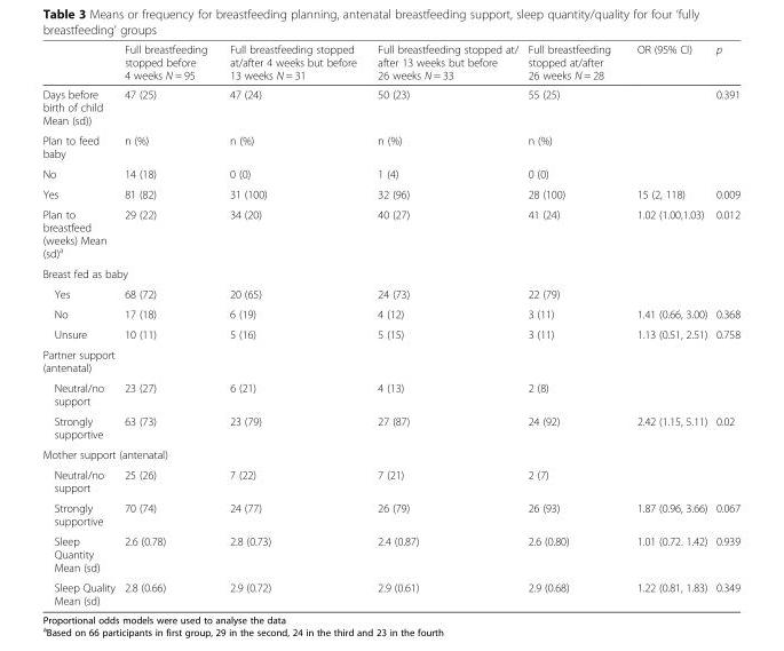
<table><thead><tr><td></td><td>Full breastfeeding stopped before 4 weeks N = 95</td><td>Full breastfeeding stopped at/after 4 weeks but before 13 weeks N = 31</td><td>Full breastfeeding stopped at/ after 13 weeks but before 26 weeks N = 33</td><td>Full breastfeeding stopped at/after 26 weeks N = 28</td><td>OR (95% CI)</td><td>p</td></tr></thead><tbody><tr><td>Days before birth of child Mean (sd))</td><td>47 (25)</td><td>47 (24)</td><td>50 (23)</td><td>55 (25)</td><td></td><td>0.391</td></tr><tr><td>Plan to feed baby</td><td>n (%)</td><td>n (%)</td><td>n (%)</td><td>n (%)</td><td></td><td></td></tr><tr><td>No</td><td>14 (18)</td><td>0 (0)</td><td>1 (4)</td><td>0 (0)</td><td></td><td></td></tr><tr><td>Yes</td><td>81 (82)</td><td>31 (100)</td><td>32 (96)</td><td>28 (100)</td><td>15 (2, 118)</td><td>0.009</td></tr><tr><td>Plan to breastfeed (weeks) Mean (sd)<sup>a</sup></td><td>29 (22)</td><td>34 (20)</td><td>40 (27)</td><td>41 (24)</td><td>1.02 (1.00,1.03)</td><td>0.012</td></tr><tr><td colspan="7">Breast fed as baby</td></tr><tr><td>Yes</td><td>68 (72)</td><td>20 (65)</td><td>24 (73)</td><td>22 (79)</td><td></td><td></td></tr><tr><td>No</td><td>17 (18)</td><td>6 (19)</td><td>4 (12)</td><td>3 (11)</td><td>1.41 (0.66, 3.00)</td><td>0.368</td></tr><tr><td>Unsure</td><td>10 (11)</td><td>5 (16)</td><td>5 (15)</td><td>3 (11)</td><td>1.13 (0.51, 2.51)</td><td>0.758</td></tr><tr><td colspan="7">Partner support (antenatal)</td></tr><tr><td>Neutral/no support</td><td>23 (27)</td><td>6 (21)</td><td>4 (13)</td><td>2 (8)</td><td></td><td></td></tr><tr><td>Strongly supportive</td><td>63 (73)</td><td>23 (79)</td><td>27 (87)</td><td>24 (92)</td><td>2.42 (1.15, 5.11)</td><td>0.02</td></tr><tr><td colspan="7">Mother support (antenatal)</td></tr><tr><td>Neutral/no support</td><td>25 (26)</td><td>7 (22)</td><td>7 (21)</td><td>2 (7)</td><td></td><td></td></tr><tr><td>Strongly supportive</td><td>70 (74)</td><td>24 (77)</td><td>26 (79)</td><td>26 (93)</td><td>1.87 (0.96, 3.66)</td><td>0.067</td></tr><tr><td>Sleep Quantity Mean (sd)</td><td>2.6 (0.78)</td><td>2.8 (0.73)</td><td>2.4 (0.87)</td><td>2.6 (0.80)</td><td>1.01 (0.72. 1.42)</td><td>0.939</td></tr><tr><td>Sleep Quality Mean (sd)</td><td>2.8 (0.66)</td><td>2.9 (0.72)</td><td>2.9 (0.61)</td><td>2.9 (0.68)</td><td>1.22 (0.81, 1.83)</td><td>0.349</td></tr></tbody></table>